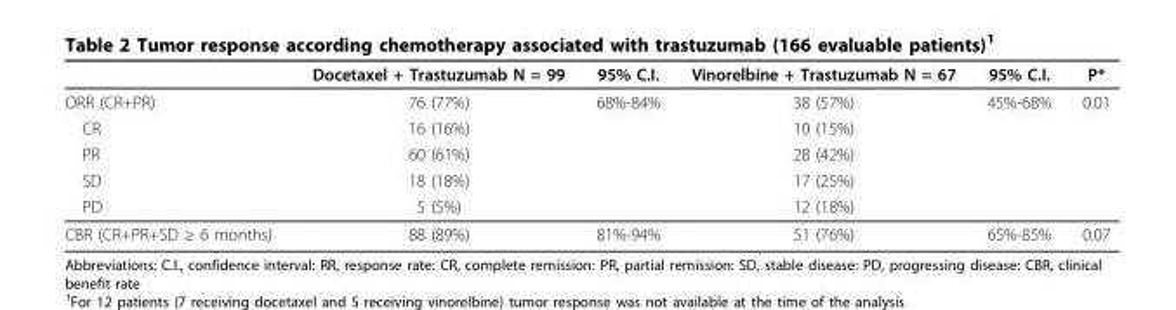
<table><thead><tr><td></td><td>Docetaxel + Trastuzumab N = 99</td><td>95% C.I.</td><td>Vinorelbine + Trastuzumab N = 67</td><td>95% C.I.</td><td>P*</td></tr></thead><tbody><tr><td>ORR (CR+PR)</td><td>76 (77%)</td><td>68%-84%</td><td>38 (57%)</td><td>45%-68%</td><td>0.01</td></tr><tr><td>CR</td><td>16 (16%)</td><td></td><td>10 (15%)</td><td></td><td></td></tr><tr><td>PR</td><td>60 (61%)</td><td></td><td>28 (42%)</td><td></td><td></td></tr><tr><td>SD</td><td>18 (18%)</td><td></td><td>17 (25%)</td><td></td><td></td></tr><tr><td>PD</td><td>5 (5%)</td><td></td><td>12 (18%)</td><td></td><td></td></tr><tr><td>CBR (CR+PR+SD ≥ 6 months)</td><td>88 (89%)</td><td>81%-94%</td><td>51 (76%)</td><td>65%-85%</td><td>0.07</td></tr></tbody></table>